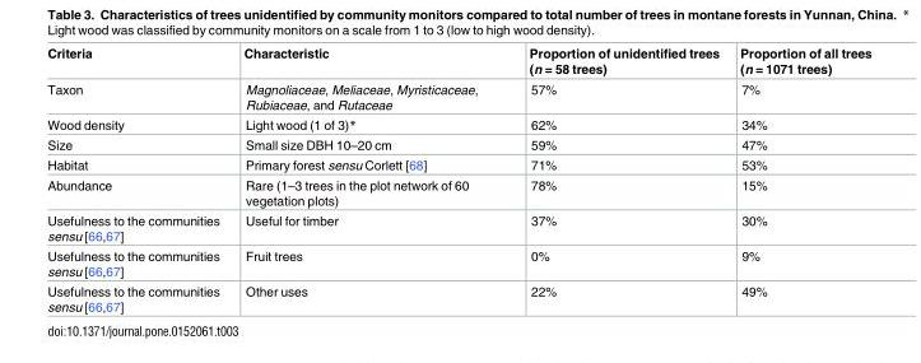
<table><thead><tr><td>Criteria</td><td>Characteristic</td><td>Proportion of unidentified trees (n = 58 trees)</td><td>Proportion of all trees (n = 1071 trees)</td></tr></thead><tbody><tr><td>Taxon</td><td>Magnoliaceae, Meliaceae, Myristicaceae, Rubiaceae, and Rutaceae</td><td>57%</td><td>7%</td></tr><tr><td>Wood density</td><td>Light wood (1 of 3)*</td><td>62%</td><td>34%</td></tr><tr><td>Size</td><td>Small size DBH 10–20 cm</td><td>59%</td><td>47%</td></tr><tr><td>Habitat</td><td>Primary forest sensu Corlett [68]</td><td>71%</td><td>53%</td></tr><tr><td>Abundance</td><td>Rare (1–3 trees in the plot network of 60 vegetation plots)</td><td>78%</td><td>15%</td></tr><tr><td>Usefulness to the communities sensu [66,67]</td><td>Useful for timber</td><td>37%</td><td>30%</td></tr><tr><td>Usefulness to the communities sensu [66,67]</td><td>Fruit trees</td><td>0%</td><td>9%</td></tr><tr><td>Usefulness to the communities sensu [66,67]</td><td>Other uses</td><td>22%</td><td>49%</td></tr></tbody></table>